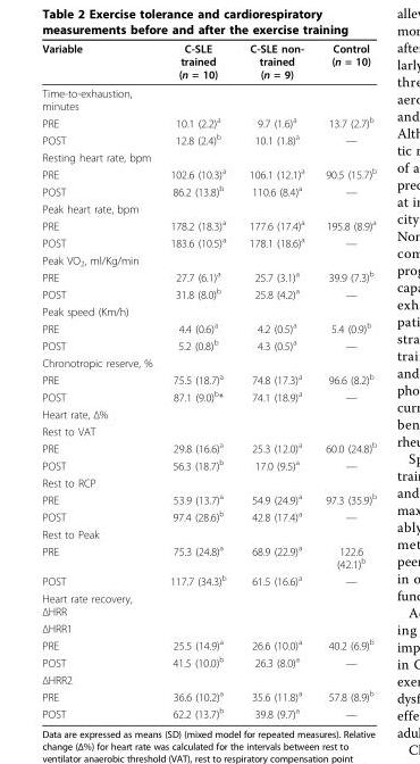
<table><thead><tr><td>Variable</td><td>C-SLE trained (n = 10)</td><td>C-SLE non- trained (n = 9)</td><td>Control (n = 10)</td></tr></thead><tbody><tr><td colspan="4">Time-to-exhaustion, minutes</td></tr><tr><td>PRE</td><td>10.1 (2.2)<sup>a</sup></td><td>9.7 (1.6)<sup>a</sup></td><td>13.7 (2.7)<sup>b</sup></td></tr><tr><td>POST</td><td>12.8 (2.4)<sup>b</sup></td><td>10.1 (1.8)<sup>a</sup></td><td>—</td></tr><tr><td colspan="4">Resting heart rate, bpm</td></tr><tr><td>PRE</td><td>102.6 (10.3)<sup>a</sup></td><td>106.1 (12.1)<sup>a</sup></td><td>90.5 (15.7)<sup>b</sup></td></tr><tr><td>POST</td><td>86.2 (13.8)<sup>b</sup></td><td>110.6 (8.4)<sup>a</sup></td><td>—</td></tr><tr><td colspan="4">Peak heart rate, bpm</td></tr><tr><td>PRE</td><td>178.2 (18.3)<sup>a</sup></td><td>177.6 (17.4)<sup>a</sup></td><td>195.8 (8.9)<sup>a</sup></td></tr><tr><td>POST</td><td>183.6 (10.5)<sup>a</sup></td><td>178.1 (18.6)<sup>a</sup></td><td>—</td></tr><tr><td colspan="4">Peak VO<sub>2</sub>, ml/Kg/min</td></tr><tr><td>PRE</td><td>27.7 (6.1)<sup>a</sup></td><td>25.7 (3.1)<sup>a</sup></td><td>39.9 (7.3)<sup>b</sup></td></tr><tr><td>POST</td><td>31.8 (8.0)<sup>b</sup></td><td>25.8 (4.2)<sup>a</sup></td><td>—</td></tr><tr><td colspan="4">Peak speed (Km/h)</td></tr><tr><td>PRE</td><td>4.4 (0.6)<sup>a</sup></td><td>4.2 (0.5)<sup>a</sup></td><td>5.4 (0.9)<sup>b</sup></td></tr><tr><td>POST</td><td>5.2 (0.8)<sup>b</sup></td><td>4.3 (0.5)<sup>a</sup></td><td>—</td></tr><tr><td colspan="4">Chronotropic reserve, %</td></tr><tr><td>PRE</td><td>75.5 (18.7)<sup>a</sup></td><td>74.8 (17.3)<sup>a</sup></td><td>96.6 (8.2)<sup>b</sup></td></tr><tr><td>POST</td><td>87.1 (9.0)<sup>b</sup>*</td><td>74.1 (18.9)<sup>a</sup></td><td>—</td></tr><tr><td colspan="4">Heart rate, Δ%</td></tr><tr><td colspan="4">Rest to VAT</td></tr><tr><td>PRE</td><td>29.8 (16.6)<sup>a</sup></td><td>25.3 (12.0)<sup>a</sup></td><td>60.0 (24.8)<sup>b</sup></td></tr><tr><td>POST</td><td>56.3 (18.7)<sup>b</sup></td><td>17.0 (9.5)<sup>a</sup></td><td>—</td></tr><tr><td colspan="4">Rest to RCP</td></tr><tr><td>PRE</td><td>53.9 (13.7)<sup>a</sup></td><td>54.9 (24.9)<sup>a</sup></td><td>97.3 (35.9)<sup>b</sup></td></tr><tr><td>POST</td><td>97.4 (28.6)<sup>b</sup></td><td>42.8 (17.4)<sup>a</sup></td><td>—</td></tr><tr><td colspan="4">Rest to Peak</td></tr><tr><td>PRE</td><td>75.3 (24.8)<sup>a</sup></td><td>68.9 (22.9)<sup>a</sup></td><td>122.6 (42.1)<sup>b</sup></td></tr><tr><td>POST</td><td>117.7 (34.3)<sup>b</sup></td><td>61.5 (16.6)<sup>a</sup></td><td>—</td></tr><tr><td colspan="4">Heart rate recovery, ΔHRR</td></tr><tr><td colspan="4">ΔHRR1</td></tr><tr><td>PRE</td><td>25.5 (14.9)<sup>a</sup></td><td>26.6 (10.0)<sup>a</sup></td><td>40.2 (6.9)<sup>b</sup></td></tr><tr><td>POST</td><td>41.5 (10.0)<sup>b</sup></td><td>26.3 (8.0)<sup>a</sup></td><td>—</td></tr><tr><td colspan="4">ΔHRR2</td></tr><tr><td>PRE</td><td>36.6 (10.2)<sup>a</sup></td><td>35.6 (11.8)<sup>a</sup></td><td>57.8 (8.9)<sup>b</sup></td></tr><tr><td>POST</td><td>62.2 (13.7)<sup>b</sup></td><td>39.8 (9.7)<sup>a</sup></td><td>—</td></tr></tbody></table>